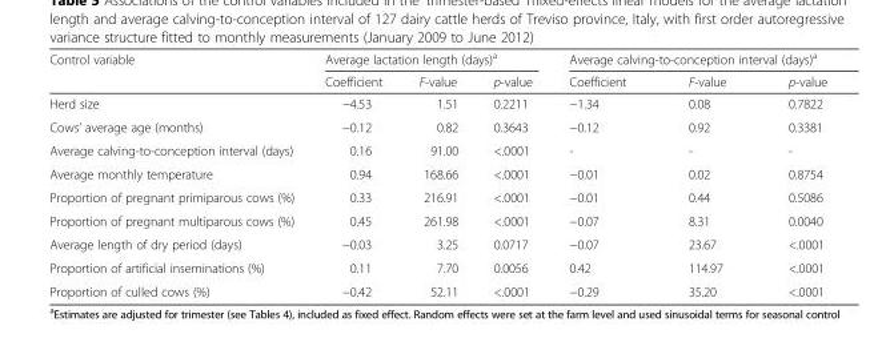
<table><thead><tr><td rowspan="2">Control variable</td><td colspan="3">Average lactation length (days)<sup>a</sup></td><td colspan="3">Average calving-to-conception interval (days)<sup>a</sup></td></tr><tr><td>Coefficient</td><td>F-value</td><td>p-value</td><td>Coefficient</td><td>F-value</td><td>p-value</td></tr></thead><tbody><tr><td>Herd size</td><td>−4.53</td><td>1.51</td><td>0.2211</td><td>−1.34</td><td>0.08</td><td>0.7822</td></tr><tr><td>Cows’ average age (months)</td><td>−0.12</td><td>0.82</td><td>0.3643</td><td>−0.12</td><td>0.92</td><td>0.3381</td></tr><tr><td>Average calving-to-conception interval (days)</td><td>0.16</td><td>91.00</td><td>&lt;.0001</td><td>-</td><td>-</td><td>-</td></tr><tr><td>Average monthly temperature</td><td>0.94</td><td>168.66</td><td>&lt;.0001</td><td>−0.01</td><td>0.02</td><td>0.8754</td></tr><tr><td>Proportion of pregnant primiparous cows (%)</td><td>0.33</td><td>216.91</td><td>&lt;.0001</td><td>−0.01</td><td>0.44</td><td>0.5086</td></tr><tr><td>Proportion of pregnant multiparous cows (%)</td><td>0.45</td><td>261.98</td><td>&lt;.0001</td><td>−0.07</td><td>8.31</td><td>0.0040</td></tr><tr><td>Average length of dry period (days)</td><td>−0.03</td><td>3.25</td><td>0.0717</td><td>−0.07</td><td>23.67</td><td>&lt;.0001</td></tr><tr><td>Proportion of artificial inseminations (%)</td><td>0.11</td><td>7.70</td><td>0.0056</td><td>0.42</td><td>114.97</td><td>&lt;.0001</td></tr><tr><td>Proportion of culled cows (%)</td><td>−0.42</td><td>52.11</td><td>&lt;.0001</td><td>−0.29</td><td>35.20</td><td>&lt;.0001</td></tr></tbody></table>